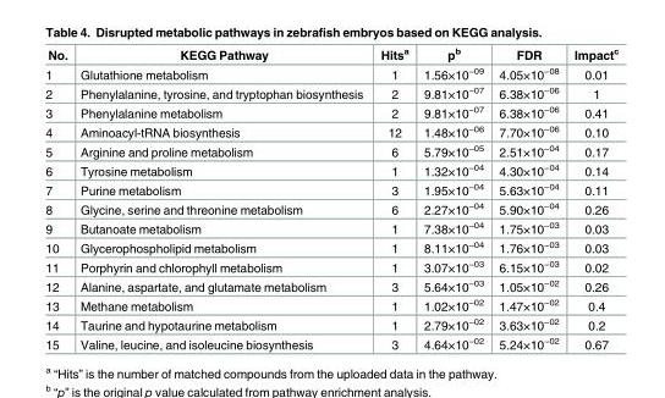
<table><thead><tr><td>No.</td><td>KEGG Pathway</td><td>Hits<sup>a</sup></td><td>p<sup>b</sup></td><td>FDR</td><td>Impact<sup>c</sup></td></tr></thead><tbody><tr><td>1</td><td>Glutathione metabolism</td><td>1</td><td>1.56×10<sup>−09</sup></td><td>4.05×10<sup>−08</sup></td><td>0.01</td></tr><tr><td>2</td><td>Phenylalanine, tyrosine, and tryptophan biosynthesis</td><td>2</td><td>9.81×10<sup>−07</sup></td><td>6.38×10<sup>−06</sup></td><td>1</td></tr><tr><td>3</td><td>Phenylalanine metabolism</td><td>2</td><td>9.81×10<sup>−07</sup></td><td>6.38×10<sup>−06</sup></td><td>0.41</td></tr><tr><td>4</td><td>Aminoacyl-tRNA biosynthesis</td><td>12</td><td>1.48×10<sup>−06</sup></td><td>7.70×10<sup>−06</sup></td><td>0.10</td></tr><tr><td>5</td><td>Arginine and proline metabolism</td><td>6</td><td>5.79×10<sup>−05</sup></td><td>2.51×10<sup>−04</sup></td><td>0.17</td></tr><tr><td>6</td><td>Tyrosine metabolism</td><td>1</td><td>1.32×10<sup>−04</sup></td><td>4.30×10<sup>−04</sup></td><td>0.14</td></tr><tr><td>7</td><td>Purine metabolism</td><td>3</td><td>1.95×10<sup>−04</sup></td><td>5.63×10<sup>−04</sup></td><td>0.11</td></tr><tr><td>8</td><td>Glycine, serine and threonine metabolism</td><td>6</td><td>2.27×10<sup>−04</sup></td><td>5.90×10<sup>−04</sup></td><td>0.26</td></tr><tr><td>9</td><td>Butanoate metabolism</td><td>1</td><td>7.38×10<sup>−04</sup></td><td>1.75×10<sup>−03</sup></td><td>0.03</td></tr><tr><td>10</td><td>Glycerophospholipid metabolism</td><td>1</td><td>8.11×10<sup>−04</sup></td><td>1.76×10<sup>−03</sup></td><td>0.03</td></tr><tr><td>11</td><td>Porphyrin and chlorophyll metabolism</td><td>1</td><td>3.07×10<sup>−03</sup></td><td>6.15×10<sup>−03</sup></td><td>0.02</td></tr><tr><td>12</td><td>Alanine, aspartate, and glutamate metabolism</td><td>3</td><td>5.64×10<sup>−03</sup></td><td>1.05×10<sup>−02</sup></td><td>0.26</td></tr><tr><td>13</td><td>Methane metabolism</td><td>1</td><td>1.02×10<sup>−02</sup></td><td>1.47×10<sup>−02</sup></td><td>0.4</td></tr><tr><td>14</td><td>Taurine and hypotaurine metabolism</td><td>1</td><td>2.79×10<sup>−02</sup></td><td>3.63×10<sup>−02</sup></td><td>0.2</td></tr><tr><td>15</td><td>Valine, leucine, and isoleucine biosynthesis</td><td>3</td><td>4.64×10<sup>−02</sup></td><td>5.24×10<sup>−02</sup></td><td>0.67</td></tr></tbody></table>